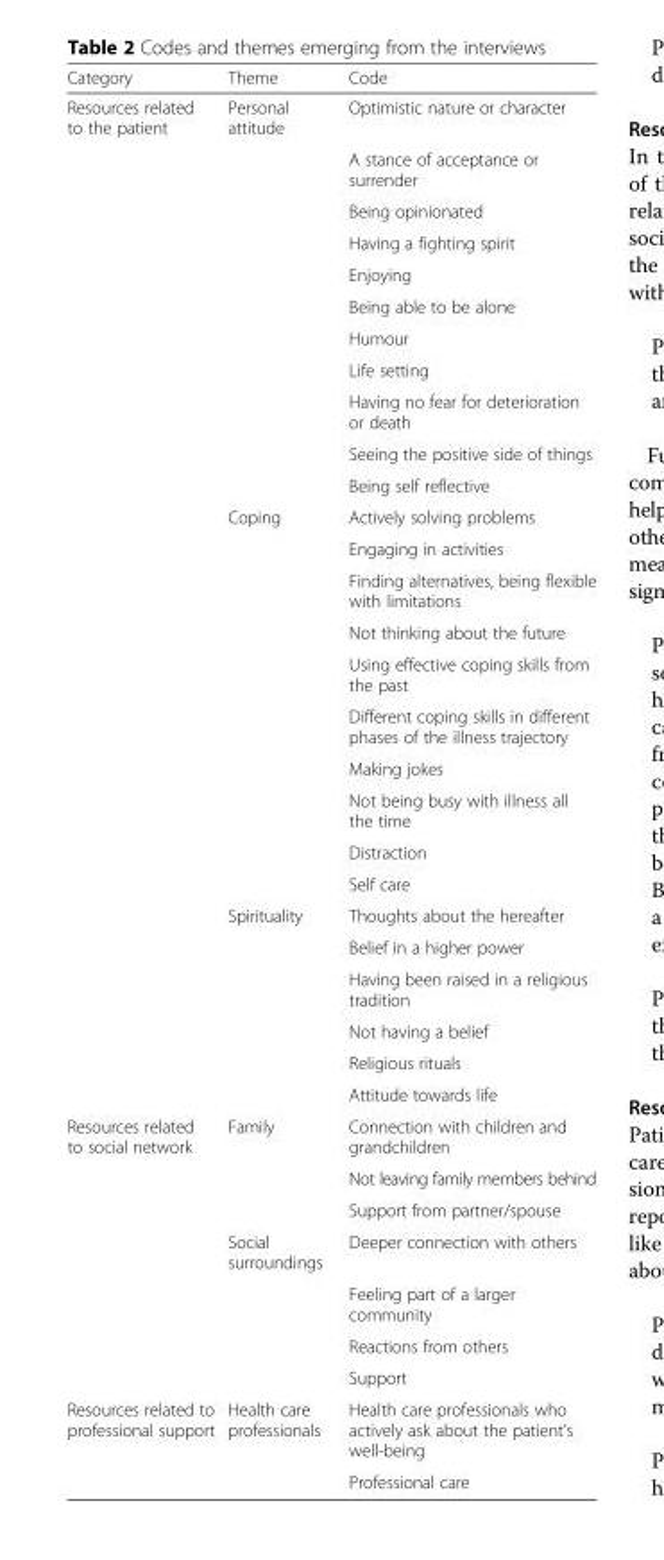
<table><thead><tr><td>Category</td><td>Theme</td><td>Code</td></tr></thead><tbody><tr><td rowspan="27">Resources related to the patient</td><td>Personal attitude</td><td>Optimistic nature or character</td></tr><tr><td></td><td>A stance of acceptance or surrender</td></tr><tr><td></td><td>Being opinionated</td></tr><tr><td></td><td>Having a fighting spirit</td></tr><tr><td></td><td>Enjoying</td></tr><tr><td></td><td>Being able to be alone</td></tr><tr><td></td><td>Humour</td></tr><tr><td></td><td>Life setting</td></tr><tr><td></td><td>Having no fear for deterioration or death</td></tr><tr><td></td><td>Seeing the positive side of things</td></tr><tr><td></td><td>Being self reflective</td></tr><tr><td>Coping</td><td>Actively solving problems</td></tr><tr><td></td><td>Engaging in activities</td></tr><tr><td></td><td>Finding alternatives, being flexible with limitations</td></tr><tr><td></td><td>Not thinking about the future</td></tr><tr><td></td><td>Using effective coping skills from the past</td></tr><tr><td></td><td>Different coping skills in different phases of the illness trajectory</td></tr><tr><td></td><td>Making jokes</td></tr><tr><td></td><td>Not being busy with illness all the time</td></tr><tr><td></td><td>Distraction</td></tr><tr><td></td><td>Self care</td></tr><tr><td>Spirituality</td><td>Thoughts about the hereafter</td></tr><tr><td></td><td>Belief in a higher power</td></tr><tr><td></td><td>Having been raised in a religious tradition</td></tr><tr><td></td><td>Not having a belief</td></tr><tr><td></td><td>Religious rituals</td></tr><tr><td></td><td>Attitude towards life</td></tr><tr><td rowspan="7">Resources related to social network</td><td>Family</td><td>Connection with children and grandchildren</td></tr><tr><td></td><td>Not leaving family members behind</td></tr><tr><td></td><td>Support from partner/spouse</td></tr><tr><td>Social surroundings</td><td>Deeper connection with others</td></tr><tr><td></td><td>Feeling part of a larger community</td></tr><tr><td></td><td>Reactions from others</td></tr><tr><td></td><td>Support</td></tr><tr><td rowspan="2">Resources related to professional support</td><td>Health care professionals</td><td>Health care professionals who actively ask about the patient’s well-being</td></tr><tr><td></td><td>Professional care</td></tr></tbody></table>